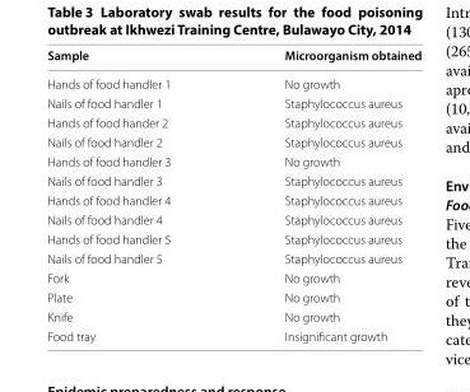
<table><thead><tr><td>Sample</td><td>Microorganism obtained</td></tr></thead><tbody><tr><td>Hands of food handler 1</td><td>No growth</td></tr><tr><td>Nails of food handler 1</td><td>Staphylococcus aureus</td></tr><tr><td>Hands of food hander 2</td><td>Staphylococcus aureus</td></tr><tr><td>Nails of food handler 2</td><td>Staphylococcus aureus</td></tr><tr><td>Hands of food handler 3</td><td>No growth</td></tr><tr><td>Nails of food handler 3</td><td>Staphylococcus aureus</td></tr><tr><td>Hands of food handler 4</td><td>Staphylococcus aureus</td></tr><tr><td>Nails of food handler 4</td><td>Staphylococcus aureus</td></tr><tr><td>Hands of food handler 5</td><td>Staphylococcus aureus</td></tr><tr><td>Nails of food handler 5</td><td>Staphylococcus aureus</td></tr><tr><td>Fork</td><td>No growth</td></tr><tr><td>Plate</td><td>No growth</td></tr><tr><td>Knife</td><td>No growth</td></tr><tr><td>Food tray</td><td>Insignificant growth</td></tr></tbody></table>